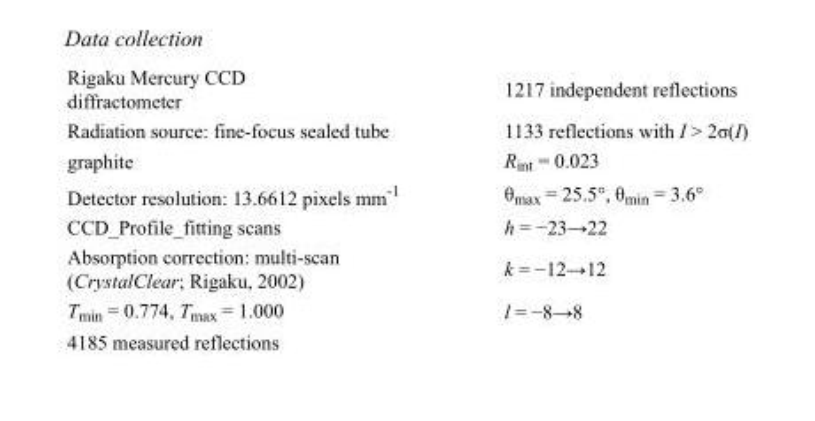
<table><tbody><tr><td>Rigaku Mercury CCD diffractometer</td><td>1217 independent reflections</td></tr><tr><td>Radiation source: fine-focus sealed tube</td><td>1133 reflections with I &gt; 2σ(I)</td></tr><tr><td>graphite</td><td>R<sub>int</sub> = 0.023</td></tr><tr><td>Detector resolution: 13.6612 pixels mm<sup>-1</sup></td><td>θ<sub>max</sub> = 25.5°, θ<sub>min</sub> = 3.6°</td></tr><tr><td>CCD_Profile_fitting scans</td><td>h = −23→22</td></tr><tr><td>Absorption correction: multi-scan (CrystalClear; Rigaku, 2002)</td><td>k = −12→12</td></tr><tr><td>T<sub>min</sub> = 0.774, T<sub>max</sub> = 1.000</td><td>l = −8→8</td></tr><tr><td>4185 measured reflections</td><td></td></tr></tbody></table>